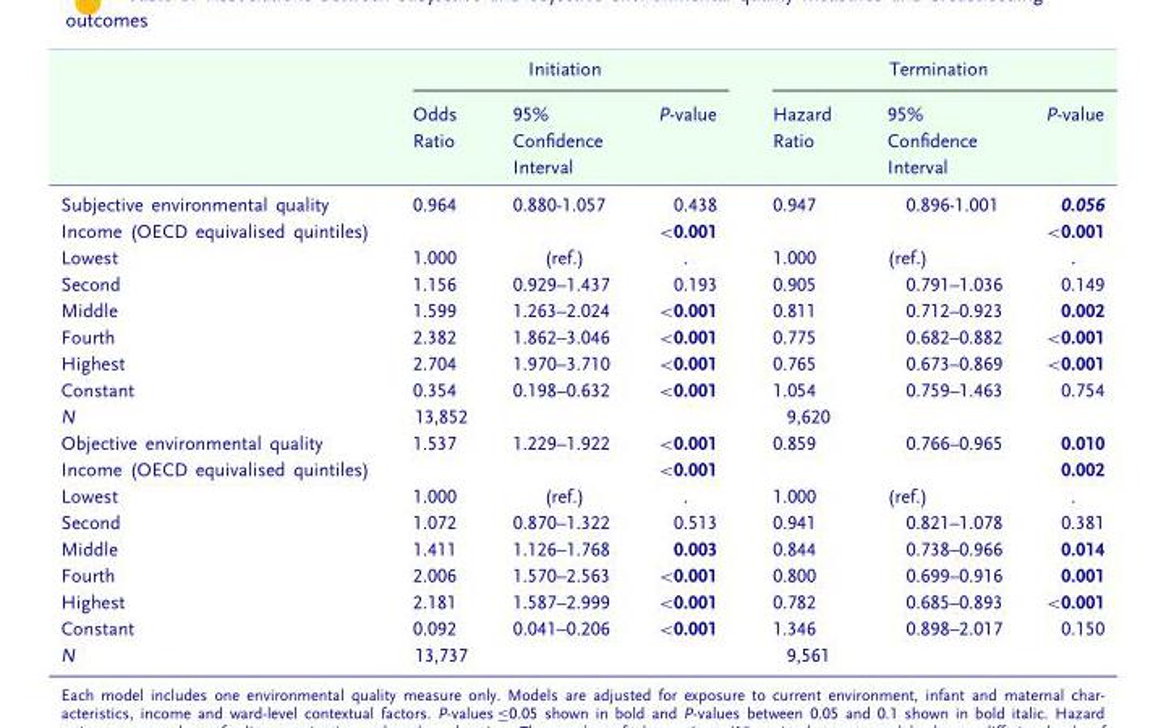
<table><thead><tr><td rowspan="2"></td><td colspan="3">Initiation</td><td colspan="3">Termination</td></tr><tr><td>Odds Ratio</td><td>95% Confidence Interval</td><td>P-value</td><td>Hazard Ratio</td><td>95% Confidence Interval</td><td>P-value</td></tr></thead><tbody><tr><td>Subjective environmental quality</td><td>0.964</td><td>0.880-1.057</td><td>0.438</td><td>0.947</td><td>0.896-1.001</td><td>0.056</td></tr><tr><td>Income (OECD equivalised quintiles)</td><td></td><td></td><td>&lt;0.001</td><td></td><td></td><td>&lt;0.001</td></tr><tr><td>Lowest</td><td>1.000</td><td>(ref.)</td><td>.</td><td>1.000</td><td>(ref.)</td><td>.</td></tr><tr><td>Second</td><td>1.156</td><td>0.929–1.437</td><td>0.193</td><td>0.905</td><td>0.791–1.036</td><td>0.149</td></tr><tr><td>Middle</td><td>1.599</td><td>1.263–2.024</td><td>&lt;0.001</td><td>0.811</td><td>0.712–0.923</td><td>0.002</td></tr><tr><td>Fourth</td><td>2.382</td><td>1.862–3.046</td><td>&lt;0.001</td><td>0.775</td><td>0.682–0.882</td><td>&lt;0.001</td></tr><tr><td>Highest</td><td>2.704</td><td>1.970–3.710</td><td>&lt;0.001</td><td>0.765</td><td>0.673–0.869</td><td>&lt;0.001</td></tr><tr><td>Constant</td><td>0.354</td><td>0.198–0.632</td><td>&lt;0.001</td><td>1.054</td><td>0.759–1.463</td><td>0.754</td></tr><tr><td>N</td><td>13,852</td><td></td><td></td><td>9,620</td><td></td><td></td></tr><tr><td>Objective environmental quality</td><td>1.537</td><td>1.229–1.922</td><td>&lt;0.001</td><td>0.859</td><td>0.766–0.965</td><td>0.010</td></tr><tr><td>Income (OECD equivalised quintiles)</td><td></td><td></td><td>&lt;0.001</td><td></td><td></td><td>0.002</td></tr><tr><td>Lowest</td><td>1.000</td><td>(ref.)</td><td>.</td><td>1.000</td><td>(ref.)</td><td>.</td></tr><tr><td>Second</td><td>1.072</td><td>0.870–1.322</td><td>0.513</td><td>0.941</td><td>0.821–1.078</td><td>0.381</td></tr><tr><td>Middle</td><td>1.411</td><td>1.126–1.768</td><td>0.003</td><td>0.844</td><td>0.738–0.966</td><td>0.014</td></tr><tr><td>Fourth</td><td>2.006</td><td>1.570–2.563</td><td>&lt;0.001</td><td>0.800</td><td>0.699–0.916</td><td>0.001</td></tr><tr><td>Highest</td><td>2.181</td><td>1.587–2.999</td><td>&lt;0.001</td><td>0.782</td><td>0.685–0.893</td><td>&lt;0.001</td></tr><tr><td>Constant</td><td>0.092</td><td>0.041–0.206</td><td>&lt;0.001</td><td>1.346</td><td>0.898–2.017</td><td>0.150</td></tr><tr><td>N</td><td>13,737</td><td></td><td></td><td>9,561</td><td></td><td></td></tr></tbody></table>